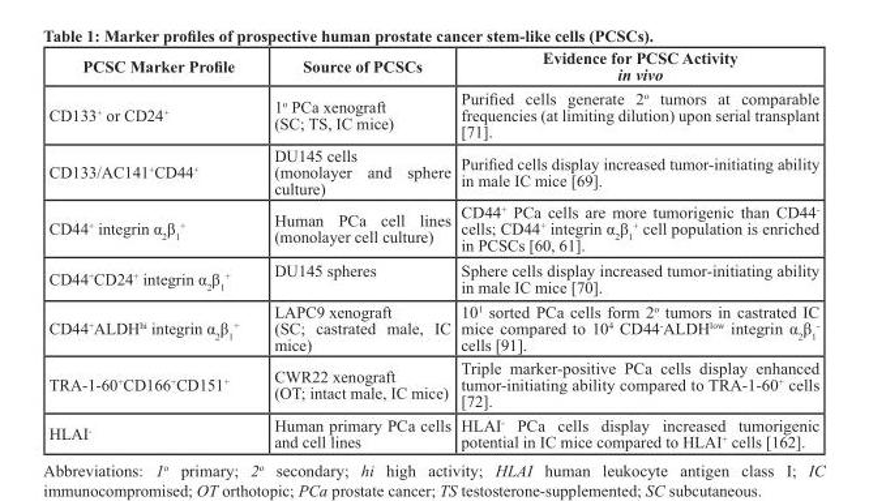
<table><thead><tr><td>PCSC Marker Profile</td><td>Source of PCSCs</td><td>Evidence for PCSC Activity in vivo</td></tr></thead><tbody><tr><td>CD133<sup>+</sup> or CD24<sup>+</sup></td><td>1° PCa xenograft (SC; TS, IC mice)</td><td>Purified cells generate 2° tumors at comparable frequencies (at limiting dilution) upon serial transplant [71].</td></tr><tr><td>CD133/AC141<sup>+</sup>CD44<sup>+</sup></td><td>DU145 cells (monolayer and sphere culture)</td><td>Purified cells display increased tumor-initiating ability in male IC mice [69].</td></tr><tr><td>CD44<sup>+</sup> integrin α<sub>2</sub>β<sub>1</sub> <sup>+</sup></td><td>Human PCa cell lines (monolayer cell culture)</td><td>CD44<sup>+</sup> PCa cells are more tumorigenic than CD44- cells; CD44<sup>+</sup> integrin α<sub>2</sub>β<sub>1</sub> <sup>+</sup> cell population is enriched in PCSCs [60, 61].</td></tr><tr><td>CD44<sup>+</sup>CD24<sup>+</sup> integrin α<sub>2</sub>β<sub>1</sub> <sup>+</sup></td><td>DU145 spheres</td><td>Sphere cells display increased tumor-initiating ability in male IC mice [70].</td></tr><tr><td>CD44<sup>+</sup>ALDH<sup>hi</sup> integrin α<sub>2</sub>β<sub>1</sub> <sup>+</sup></td><td>LAPC9 xenograft (SC; castrated male, IC mice)</td><td>101 sorted PCa cells form 2o tumors in castrated IC mice compared to 104 CD44-ALDHlow integrin α2β1 - cells [91].</td></tr><tr><td>TRA-1-60<sup>+</sup>CD166<sup>+</sup>CD151<sup>+</sup></td><td>CWR22 xenograft (OT; intact male, IC mice)</td><td>Triple marker-positive PCa cells display enhanced tumor-initiating ability compared to TRA-1-60<sup>+</sup> cells [72].</td></tr><tr><td>HLAI<sup>-</sup></td><td>Human primary PCa cells and cell lines</td><td>HLAI<sup>-</sup> PCa cells display increased tumorigenic potential in IC mice compared to HLAI<sup>+</sup> cells [162].</td></tr></tbody></table>